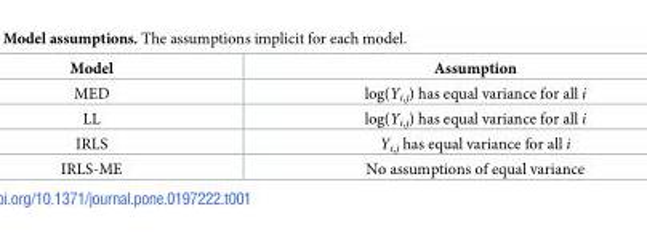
<table><thead><tr><td>Model</td><td>Assumption</td></tr></thead><tbody><tr><td>MED</td><td>log(Y<sub>i,j</sub>) has equal variance for all i</td></tr><tr><td>LL</td><td>log(Y<sub>i,j</sub>) has equal variance for all i</td></tr><tr><td>IRLS</td><td>Y<sub>i,j</sub> has equal variance for all i</td></tr><tr><td>IRLS-ME</td><td>No assumptions of equal variance</td></tr></tbody></table>